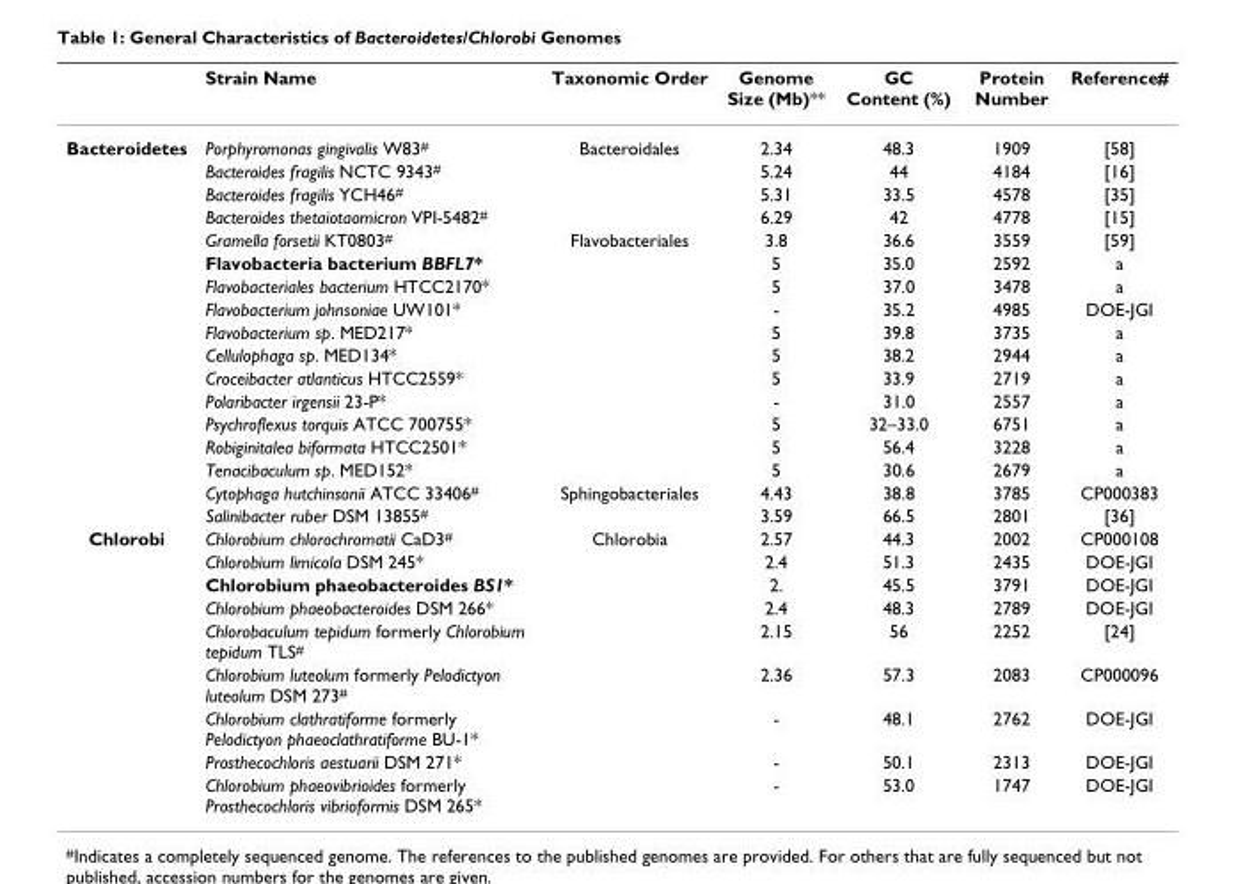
<table><thead><tr><td></td><td>Strain Name</td><td>Taxonomic Order</td><td>Genome Size (Mb)**</td><td>GC Content (%)</td><td>Protein Number</td><td>Reference#</td></tr></thead><tbody><tr><td rowspan="17">Bacteroidetes</td><td>Porphyromonas gingivalis W83<sup>#</sup></td><td>Bacteroidales</td><td>2.34</td><td>48.3</td><td>1909</td><td>[58]</td></tr><tr><td>Bacteroides fragilis NCTC 9343<sup>#</sup></td><td></td><td>5.24</td><td>44</td><td>4184</td><td>[16]</td></tr><tr><td>Bacteroides fragilis YCH46<sup>#</sup></td><td></td><td>5.31</td><td>33.5</td><td>4578</td><td>[35]</td></tr><tr><td>Bacteroides thetaiotaomicron VPI-5482<sup>#</sup></td><td></td><td>6.29</td><td>42</td><td>4778</td><td>[15]</td></tr><tr><td>Gramella forsetii KT0803<sup>#</sup></td><td>Flavobacteriales</td><td>3.8</td><td>36.6</td><td>3559</td><td>[59]</td></tr><tr><td>Flavobacteria bacterium BBFL7*</td><td></td><td>5</td><td>35.0</td><td>2592</td><td>a</td></tr><tr><td>Flavobacteriales bacterium HTCC2170*</td><td></td><td>5</td><td>37.0</td><td>3478</td><td>a</td></tr><tr><td>Flavobacterium johnsoniae UW101*</td><td></td><td>-</td><td>35.2</td><td>4985</td><td>DOE-JGI</td></tr><tr><td>Flavobacterium sp. MED217*</td><td></td><td>5</td><td>39.8</td><td>3735</td><td>a</td></tr><tr><td>Cellulophaga sp. MED134*</td><td></td><td>5</td><td>38.2</td><td>2944</td><td>a</td></tr><tr><td>Croceibacter atlanticus HTCC2559*</td><td></td><td>5</td><td>33.9</td><td>2719</td><td>a</td></tr><tr><td>Polaribacter irgensii 23-P*</td><td></td><td>-</td><td>31.0</td><td>2557</td><td>a</td></tr><tr><td>Psychroflexus torquis ATCC 700755*</td><td></td><td>5</td><td>32–33.0</td><td>6751</td><td>a</td></tr><tr><td>Robiginitalea biformata HTCC2501*</td><td></td><td>5</td><td>56.4</td><td>3228</td><td>a</td></tr><tr><td>Tenacibaculum sp. MED152*</td><td></td><td>5</td><td>30.6</td><td>2679</td><td>a</td></tr><tr><td>Cytophaga hutchinsonii ATCC 33406<sup>#</sup></td><td>Sphingobacteriales</td><td>4.43</td><td>38.8</td><td>3785</td><td>CP000383</td></tr><tr><td>Salinibacter ruber DSM 13855<sup>#</sup></td><td></td><td>3.59</td><td>66.5</td><td>2801</td><td>[36]</td></tr><tr><td rowspan="9">Chlorobi</td><td>Chlorobium chlorochromatii CaD3<sup>#</sup></td><td>Chlorobia</td><td>2.57</td><td>44.3</td><td>2002</td><td>CP000108</td></tr><tr><td>Chlorobium limicola DSM 245*</td><td></td><td>2.4</td><td>51.3</td><td>2435</td><td>DOE-JGI</td></tr><tr><td>Chlorobium phaeobacteroides BS1*</td><td></td><td>2.</td><td>45.5</td><td>3791</td><td>DOE-JGI</td></tr><tr><td>Chlorobium phaeobacteroides DSM 266*</td><td></td><td>2.4</td><td>48.3</td><td>2789</td><td>DOE-JGI</td></tr><tr><td>Chlorobaculum tepidum formerly Chlorobium tepidum TLS<sup>#</sup></td><td></td><td>2.15</td><td>56</td><td>2252</td><td>[24]</td></tr><tr><td>Chlorobium luteolum formerly Pelodictyon luteolum DSM 273<sup>#</sup></td><td></td><td>2.36</td><td>57.3</td><td>2083</td><td>CP000096</td></tr><tr><td>Chlorobium clathratiforme formerly Pelodictyon phaeoclathratiforme BU-1*</td><td></td><td>-</td><td>48.1</td><td>2762</td><td>DOE-JGI</td></tr><tr><td>Prosthecochloris aestuarii DSM 271*</td><td></td><td>-</td><td>50.1</td><td>2313</td><td>DOE-JGI</td></tr><tr><td>Chlorobium phaeovibrioides formerly Prosthecochloris vibrioformis DSM 265*</td><td></td><td>-</td><td>53.0</td><td>1747</td><td>DOE-JGI</td></tr></tbody></table>